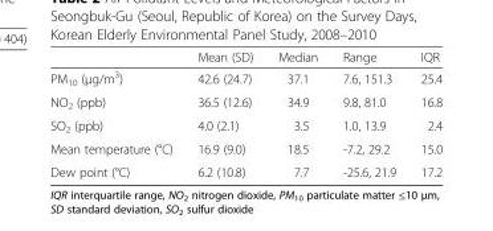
<table><thead><tr><td></td><td>Mean (SD)</td><td>Median</td><td>Range</td><td>IQR</td></tr></thead><tbody><tr><td>PM<sub>10</sub> (μg/m<sup>3</sup>)</td><td>42.6 (24.7)</td><td>37.1</td><td>7.6, 151.3</td><td>25.4</td></tr><tr><td>NO<sub>2</sub> (ppb)</td><td>36.5 (12.6)</td><td>34.9</td><td>9.8, 81.0</td><td>16.8</td></tr><tr><td>SO<sub>2</sub> (ppb)</td><td>4.0 (2.1)</td><td>3.5</td><td>1.0, 13.9</td><td>2.4</td></tr><tr><td>Mean temperature (°C)</td><td>16.9 (9.0)</td><td>18.5</td><td>-7.2, 29.2</td><td>15.0</td></tr><tr><td>Dew point (°C)</td><td>6.2 (10.8)</td><td>7.7</td><td>-25.6, 21.9</td><td>17.2</td></tr></tbody></table>